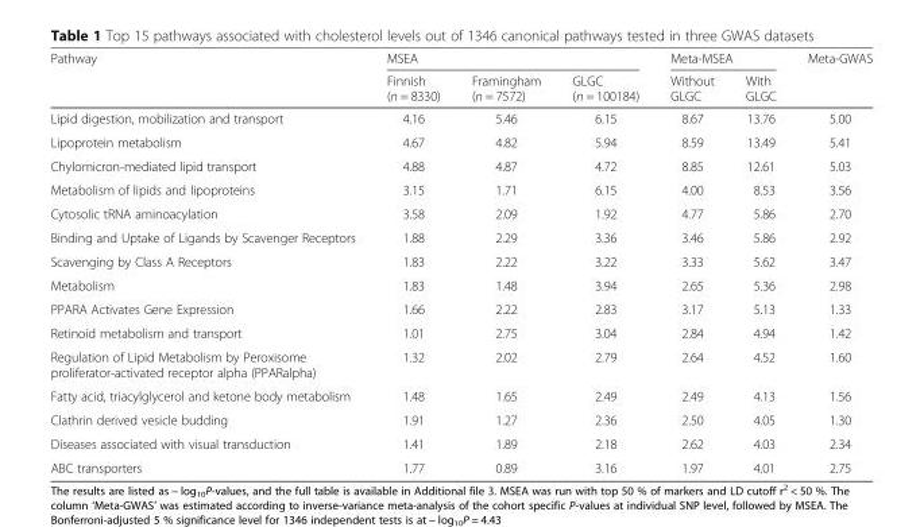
<table><thead><tr><td rowspan="2">Pathway</td><td colspan="3">MSEA</td><td colspan="2">Meta-MSEA</td><td rowspan="2">Meta-GWAS</td></tr><tr><td>Finnish (n = 8330)</td><td>Framingham (n = 7572)</td><td>GLGC (n = 100184)</td><td>Without GLGC</td><td>With GLGC</td></tr></thead><tbody><tr><td>Lipid digestion, mobilization and transport</td><td>4.16</td><td>5.46</td><td>6.15</td><td>8.67</td><td>13.76</td><td>5.00</td></tr><tr><td>Lipoprotein metabolism</td><td>4.67</td><td>4.82</td><td>5.94</td><td>8.59</td><td>13.49</td><td>5.41</td></tr><tr><td>Chylomicron-mediated lipid transport</td><td>4.88</td><td>4.87</td><td>4.72</td><td>8.85</td><td>12.61</td><td>5.03</td></tr><tr><td>Metabolism of lipids and lipoproteins</td><td>3.15</td><td>1.71</td><td>6.15</td><td>4.00</td><td>8.53</td><td>3.56</td></tr><tr><td>Cytosolic tRNA aminoacylation</td><td>3.58</td><td>2.09</td><td>1.92</td><td>4.77</td><td>5.86</td><td>2.70</td></tr><tr><td>Binding and Uptake of Ligands by Scavenger Receptors</td><td>1.88</td><td>2.29</td><td>3.36</td><td>3.46</td><td>5.86</td><td>2.92</td></tr><tr><td>Scavenging by Class A Receptors</td><td>1.83</td><td>2.22</td><td>3.22</td><td>3.33</td><td>5.62</td><td>3.47</td></tr><tr><td>Metabolism</td><td>1.83</td><td>1.48</td><td>3.94</td><td>2.65</td><td>5.36</td><td>2.98</td></tr><tr><td>PPARA Activates Gene Expression</td><td>1.66</td><td>2.22</td><td>2.83</td><td>3.17</td><td>5.13</td><td>1.33</td></tr><tr><td>Retinoid metabolism and transport</td><td>1.01</td><td>2.75</td><td>3.04</td><td>2.84</td><td>4.94</td><td>1.42</td></tr><tr><td>Regulation of Lipid Metabolism by Peroxisome proliferator-activated receptor alpha (PPARalpha)</td><td>1.32</td><td>2.02</td><td>2.79</td><td>2.64</td><td>4.52</td><td>1.60</td></tr><tr><td>Fatty acid, triacylglycerol and ketone body metabolism</td><td>1.48</td><td>1.65</td><td>2.49</td><td>2.49</td><td>4.13</td><td>1.56</td></tr><tr><td>Clathrin derived vesicle budding</td><td>1.91</td><td>1.27</td><td>2.36</td><td>2.50</td><td>4.05</td><td>1.30</td></tr><tr><td>Diseases associated with visual transduction</td><td>1.41</td><td>1.89</td><td>2.18</td><td>2.62</td><td>4.03</td><td>2.34</td></tr><tr><td>ABC transporters</td><td>1.77</td><td>0.89</td><td>3.16</td><td>1.97</td><td>4.01</td><td>2.75</td></tr></tbody></table>